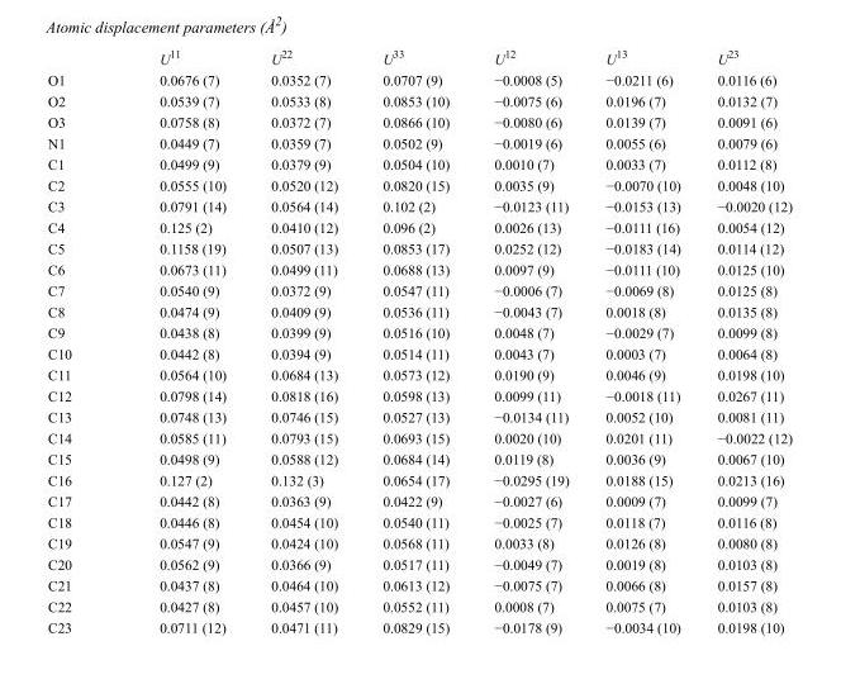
<table><thead><tr><td></td><td>U<sup>11</sup></td><td>U<sup>22</sup></td><td>U<sup>33</sup></td><td>U<sup>12</sup></td><td>U<sup>13</sup></td><td>U<sup>23</sup></td></tr></thead><tbody><tr><td>O1</td><td>0.0676 (7)</td><td>0.0352 (7)</td><td>0.0707 (9)</td><td>−0.0008 (5)</td><td>−0.0211 (6)</td><td>0.0116 (6)</td></tr><tr><td>O2</td><td>0.0539 (7)</td><td>0.0533 (8)</td><td>0.0853 (10)</td><td>−0.0075 (6)</td><td>0.0196 (7)</td><td>0.0132 (7)</td></tr><tr><td>O3</td><td>0.0758 (8)</td><td>0.0372 (7)</td><td>0.0866 (10)</td><td>−0.0080 (6)</td><td>0.0139 (7)</td><td>0.0091 (6)</td></tr><tr><td>N1</td><td>0.0449 (7)</td><td>0.0359 (7)</td><td>0.0502 (9)</td><td>−0.0019 (6)</td><td>0.0055 (6)</td><td>0.0079 (6)</td></tr><tr><td>C1</td><td>0.0499 (9)</td><td>0.0379 (9)</td><td>0.0504 (10)</td><td>0.0010 (7)</td><td>0.0033 (7)</td><td>0.0112 (8)</td></tr><tr><td>C2</td><td>0.0555 (10)</td><td>0.0520 (12)</td><td>0.0820 (15)</td><td>0.0035 (9)</td><td>−0.0070 (10)</td><td>0.0048 (10)</td></tr><tr><td>C3</td><td>0.0791 (14)</td><td>0.0564 (14)</td><td>0.102 (2)</td><td>−0.0123 (11)</td><td>−0.0153 (13)</td><td>−0.0020 (12)</td></tr><tr><td>C4</td><td>0.125 (2)</td><td>0.0410 (12)</td><td>0.096 (2)</td><td>0.0026 (13)</td><td>−0.0111 (16)</td><td>0.0054 (12)</td></tr><tr><td>C5</td><td>0.1158 (19)</td><td>0.0507 (13)</td><td>0.0853 (17)</td><td>0.0252 (12)</td><td>−0.0183 (14)</td><td>0.0114 (12)</td></tr><tr><td>C6</td><td>0.0673 (11)</td><td>0.0499 (11)</td><td>0.0688 (13)</td><td>0.0097 (9)</td><td>−0.0111 (10)</td><td>0.0125 (10)</td></tr><tr><td>C7</td><td>0.0540 (9)</td><td>0.0372 (9)</td><td>0.0547 (11)</td><td>−0.0006 (7)</td><td>−0.0069 (8)</td><td>0.0125 (8)</td></tr><tr><td>C8</td><td>0.0474 (9)</td><td>0.0409 (9)</td><td>0.0536 (11)</td><td>−0.0043 (7)</td><td>0.0018 (8)</td><td>0.0135 (8)</td></tr><tr><td>C9</td><td>0.0438 (8)</td><td>0.0399 (9)</td><td>0.0516 (10)</td><td>0.0048 (7)</td><td>−0.0029 (7)</td><td>0.0099 (8)</td></tr><tr><td>C10</td><td>0.0442 (8)</td><td>0.0394 (9)</td><td>0.0514 (11)</td><td>0.0043 (7)</td><td>0.0003 (7)</td><td>0.0064 (8)</td></tr><tr><td>C11</td><td>0.0564 (10)</td><td>0.0684 (13)</td><td>0.0573 (12)</td><td>0.0190 (9)</td><td>0.0046 (9)</td><td>0.0198 (10)</td></tr><tr><td>C12</td><td>0.0798 (14)</td><td>0.0818 (16)</td><td>0.0598 (13)</td><td>0.0099 (11)</td><td>−0.0018 (11)</td><td>0.0267 (11)</td></tr><tr><td>C13</td><td>0.0748 (13)</td><td>0.0746 (15)</td><td>0.0527 (13)</td><td>−0.0134 (11)</td><td>0.0052 (10)</td><td>0.0081 (11)</td></tr><tr><td>C14</td><td>0.0585 (11)</td><td>0.0793 (15)</td><td>0.0693 (15)</td><td>0.0020 (10)</td><td>0.0201 (11)</td><td>−0.0022 (12)</td></tr><tr><td>C15</td><td>0.0498 (9)</td><td>0.0588 (12)</td><td>0.0684 (14)</td><td>0.0119 (8)</td><td>0.0036 (9)</td><td>0.0067 (10)</td></tr><tr><td>C16</td><td>0.127 (2)</td><td>0.132 (3)</td><td>0.0654 (17)</td><td>−0.0295 (19)</td><td>0.0188 (15)</td><td>0.0213 (16)</td></tr><tr><td>C17</td><td>0.0442 (8)</td><td>0.0363 (9)</td><td>0.0422 (9)</td><td>−0.0027 (6)</td><td>0.0009 (7)</td><td>0.0099 (7)</td></tr><tr><td>C18</td><td>0.0446 (8)</td><td>0.0454 (10)</td><td>0.0540 (11)</td><td>−0.0025 (7)</td><td>0.0118 (7)</td><td>0.0116 (8)</td></tr><tr><td>C19</td><td>0.0547 (9)</td><td>0.0424 (10)</td><td>0.0568 (11)</td><td>0.0033 (8)</td><td>0.0126 (8)</td><td>0.0080 (8)</td></tr><tr><td>C20</td><td>0.0562 (9)</td><td>0.0366 (9)</td><td>0.0517 (11)</td><td>−0.0049 (7)</td><td>0.0019 (8)</td><td>0.0103 (8)</td></tr><tr><td>C21</td><td>0.0437 (8)</td><td>0.0464 (10)</td><td>0.0613 (12)</td><td>−0.0075 (7)</td><td>0.0066 (8)</td><td>0.0157 (8)</td></tr><tr><td>C22</td><td>0.0427 (8)</td><td>0.0457 (10)</td><td>0.0552 (11)</td><td>0.0008 (7)</td><td>0.0075 (7)</td><td>0.0103 (8)</td></tr><tr><td>C23</td><td>0.0711 (12)</td><td>0.0471 (11)</td><td>0.0829 (15)</td><td>−0.0178 (9)</td><td>−0.0034 (10)</td><td>0.0198 (10)</td></tr></tbody></table>